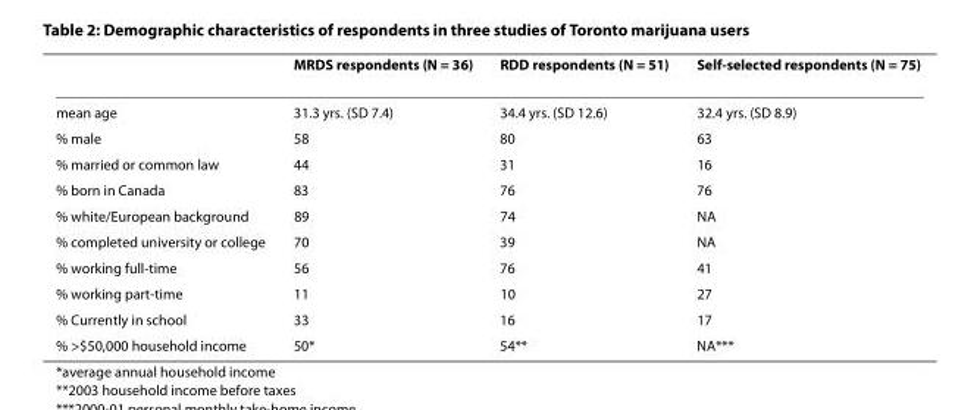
<table><thead><tr><td></td><td>MRDS respondents (N = 36)</td><td>RDD respondents (N = 51)</td><td>Self-selected respondents (N = 75)</td></tr></thead><tbody><tr><td>mean age</td><td>31.3 yrs. (SD 7.4)</td><td>34.4 yrs. (SD 12.6)</td><td>32.4 yrs. (SD 8.9)</td></tr><tr><td>% male</td><td>58</td><td>80</td><td>63</td></tr><tr><td>% married or common law</td><td>44</td><td>31</td><td>16</td></tr><tr><td>% born in Canada</td><td>83</td><td>76</td><td>76</td></tr><tr><td>% white/European background</td><td>89</td><td>74</td><td>NA</td></tr><tr><td>% completed university or college</td><td>70</td><td>39</td><td>NA</td></tr><tr><td>% working full-time</td><td>56</td><td>76</td><td>41</td></tr><tr><td>% working part-time</td><td>11</td><td>10</td><td>27</td></tr><tr><td>% Currently in school</td><td>33</td><td>16</td><td>17</td></tr><tr><td>% &gt;$50,000 household income</td><td>50*</td><td>54**</td><td>NA***</td></tr></tbody></table>